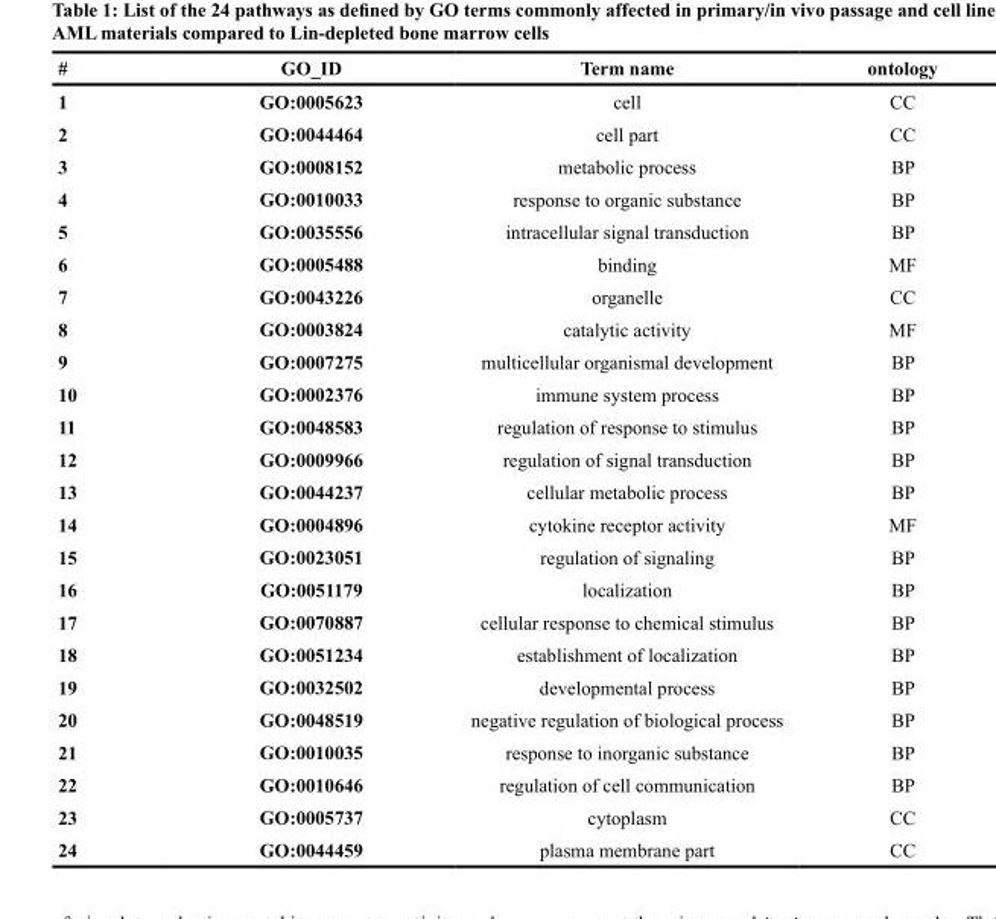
<table><thead><tr><td>#</td><td>GO_ID</td><td>Term name</td><td>ontology</td></tr></thead><tbody><tr><td>1</td><td>GO:0005623</td><td>cell</td><td>CC</td></tr><tr><td>2</td><td>GO:0044464</td><td>cell part</td><td>CC</td></tr><tr><td>3</td><td>GO:0008152</td><td>metabolic process</td><td>BP</td></tr><tr><td>4</td><td>GO:0010033</td><td>response to organic substance</td><td>BP</td></tr><tr><td>5</td><td>GO:0035556</td><td>intracellular signal transduction</td><td>BP</td></tr><tr><td>6</td><td>GO:0005488</td><td>binding</td><td>MF</td></tr><tr><td>7</td><td>GO:0043226</td><td>organelle</td><td>CC</td></tr><tr><td>8</td><td>GO:0003824</td><td>catalytic activity</td><td>MF</td></tr><tr><td>9</td><td>GO:0007275</td><td>multicellular organismal development</td><td>BP</td></tr><tr><td>10</td><td>GO:0002376</td><td>immune system process</td><td>BP</td></tr><tr><td>11</td><td>GO:0048583</td><td>regulation of response to stimulus</td><td>BP</td></tr><tr><td>12</td><td>GO:0009966</td><td>regulation of signal transduction</td><td>BP</td></tr><tr><td>13</td><td>GO:0044237</td><td>cellular metabolic process</td><td>BP</td></tr><tr><td>14</td><td>GO:0004896</td><td>cytokine receptor activity</td><td>MF</td></tr><tr><td>15</td><td>GO:0023051</td><td>regulation of signaling</td><td>BP</td></tr><tr><td>16</td><td>GO:0051179</td><td>localization</td><td>BP</td></tr><tr><td>17</td><td>GO:0070887</td><td>cellular response to chemical stimulus</td><td>BP</td></tr><tr><td>18</td><td>GO:0051234</td><td>establishment of localization</td><td>BP</td></tr><tr><td>19</td><td>GO:0032502</td><td>developmental process</td><td>BP</td></tr><tr><td>20</td><td>GO:0048519</td><td>negative regulation of biological process</td><td>BP</td></tr><tr><td>21</td><td>GO:0010035</td><td>response to inorganic substance</td><td>BP</td></tr><tr><td>22</td><td>GO:0010646</td><td>regulation of cell communication</td><td>BP</td></tr><tr><td>23</td><td>GO:0005737</td><td>cytoplasm</td><td>CC</td></tr><tr><td>24</td><td>GO:0044459</td><td>plasma membrane part</td><td>CC</td></tr></tbody></table>